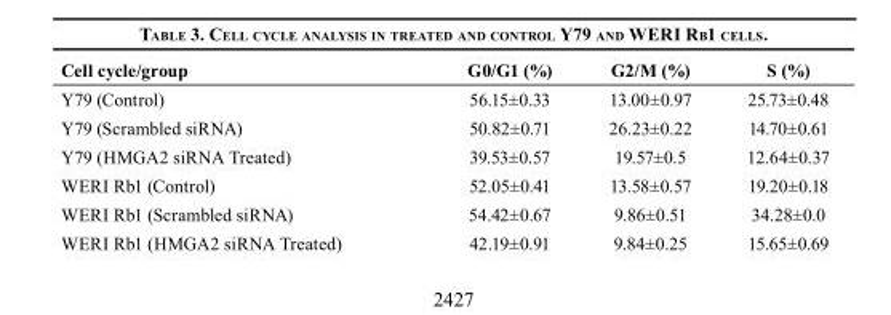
<table><thead><tr><td>Cell cycle/group</td><td>G0/G1 (%)</td><td>G2/M (%)</td><td>S (%)</td></tr></thead><tbody><tr><td>Y79 (Control)</td><td>56.15±0.33</td><td>13.00±0.97</td><td>25.73±0.48</td></tr><tr><td>Y79 (Scrambled siRNA)</td><td>50.82±0.71</td><td>26.23±0.22</td><td>14.70±0.61</td></tr><tr><td>Y79 (HMGA2 siRNA Treated)</td><td>39.53±0.57</td><td>19.57±0.5</td><td>12.64±0.37</td></tr><tr><td>WERI Rb1 (Control)</td><td>52.05±0.41</td><td>13.58±0.57</td><td>19.20±0.18</td></tr><tr><td>WERI Rb1 (Scrambled siRNA)</td><td>54.42±0.67</td><td>9.86±0.51</td><td>34.28±0.0</td></tr><tr><td>WERI Rb1 (HMGA2 siRNA Treated)</td><td>42.19±0.91</td><td>9.84±0.25</td><td>15.65±0.69</td></tr></tbody></table>